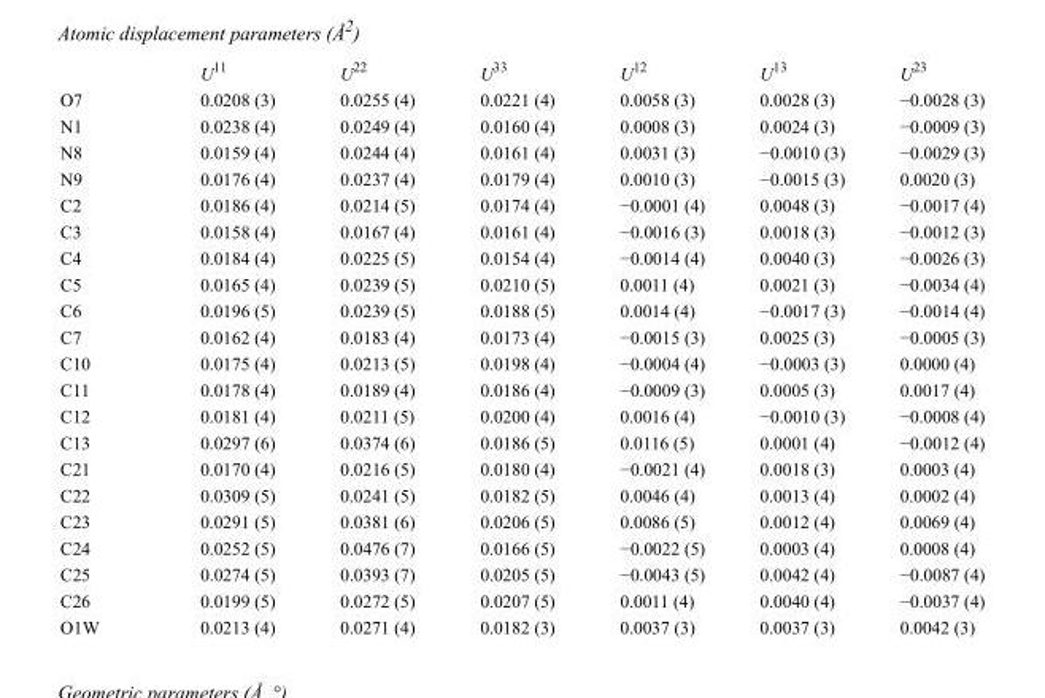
<table><thead><tr><td></td><td>U<sup>11</sup></td><td>U<sup>22</sup></td><td>U<sup>33</sup></td><td>U<sup>12</sup></td><td>U<sup>13</sup></td><td>U<sup>23</sup></td></tr></thead><tbody><tr><td>O7</td><td>0.0208 (3)</td><td>0.0255 (4)</td><td>0.0221 (4)</td><td>0.0058 (3)</td><td>0.0028 (3)</td><td>−0.0028 (3)</td></tr><tr><td>N1</td><td>0.0238 (4)</td><td>0.0249 (4)</td><td>0.0160 (4)</td><td>0.0008 (3)</td><td>0.0024 (3)</td><td>−0.0009 (3)</td></tr><tr><td>N8</td><td>0.0159 (4)</td><td>0.0244 (4)</td><td>0.0161 (4)</td><td>0.0031 (3)</td><td>−0.0010 (3)</td><td>−0.0029 (3)</td></tr><tr><td>N9</td><td>0.0176 (4)</td><td>0.0237 (4)</td><td>0.0179 (4)</td><td>0.0010 (3)</td><td>−0.0015 (3)</td><td>0.0020 (3)</td></tr><tr><td>C2</td><td>0.0186 (4)</td><td>0.0214 (5)</td><td>0.0174 (4)</td><td>−0.0001 (4)</td><td>0.0048 (3)</td><td>−0.0017 (4)</td></tr><tr><td>C3</td><td>0.0158 (4)</td><td>0.0167 (4)</td><td>0.0161 (4)</td><td>−0.0016 (3)</td><td>0.0018 (3)</td><td>−0.0012 (3)</td></tr><tr><td>C4</td><td>0.0184 (4)</td><td>0.0225 (5)</td><td>0.0154 (4)</td><td>−0.0014 (4)</td><td>0.0040 (3)</td><td>−0.0026 (3)</td></tr><tr><td>C5</td><td>0.0165 (4)</td><td>0.0239 (5)</td><td>0.0210 (5)</td><td>0.0011 (4)</td><td>0.0021 (3)</td><td>−0.0034 (4)</td></tr><tr><td>C6</td><td>0.0196 (5)</td><td>0.0239 (5)</td><td>0.0188 (5)</td><td>0.0014 (4)</td><td>−0.0017 (3)</td><td>−0.0014 (4)</td></tr><tr><td>C7</td><td>0.0162 (4)</td><td>0.0183 (4)</td><td>0.0173 (4)</td><td>−0.0015 (3)</td><td>0.0025 (3)</td><td>−0.0005 (3)</td></tr><tr><td>C10</td><td>0.0175 (4)</td><td>0.0213 (5)</td><td>0.0198 (4)</td><td>−0.0004 (4)</td><td>−0.0003 (3)</td><td>0.0000 (4)</td></tr><tr><td>C11</td><td>0.0178 (4)</td><td>0.0189 (4)</td><td>0.0186 (4)</td><td>−0.0009 (3)</td><td>0.0005 (3)</td><td>0.0017 (4)</td></tr><tr><td>C12</td><td>0.0181 (4)</td><td>0.0211 (5)</td><td>0.0200 (4)</td><td>0.0016 (4)</td><td>−0.0010 (3)</td><td>−0.0008 (4)</td></tr><tr><td>C13</td><td>0.0297 (6)</td><td>0.0374 (6)</td><td>0.0186 (5)</td><td>0.0116 (5)</td><td>0.0001 (4)</td><td>−0.0012 (4)</td></tr><tr><td>C21</td><td>0.0170 (4)</td><td>0.0216 (5)</td><td>0.0180 (4)</td><td>−0.0021 (4)</td><td>0.0018 (3)</td><td>0.0003 (4)</td></tr><tr><td>C22</td><td>0.0309 (5)</td><td>0.0241 (5)</td><td>0.0182 (5)</td><td>0.0046 (4)</td><td>0.0013 (4)</td><td>0.0002 (4)</td></tr><tr><td>C23</td><td>0.0291 (5)</td><td>0.0381 (6)</td><td>0.0206 (5)</td><td>0.0086 (5)</td><td>0.0012 (4)</td><td>0.0069 (4)</td></tr><tr><td>C24</td><td>0.0252 (5)</td><td>0.0476 (7)</td><td>0.0166 (5)</td><td>−0.0022 (5)</td><td>0.0003 (4)</td><td>0.0008 (4)</td></tr><tr><td>C25</td><td>0.0274 (5)</td><td>0.0393 (7)</td><td>0.0205 (5)</td><td>−0.0043 (5)</td><td>0.0042 (4)</td><td>−0.0087 (4)</td></tr><tr><td>C26</td><td>0.0199 (5)</td><td>0.0272 (5)</td><td>0.0207 (5)</td><td>0.0011 (4)</td><td>0.0040 (4)</td><td>−0.0037 (4)</td></tr><tr><td>O1W</td><td>0.0213 (4)</td><td>0.0271 (4)</td><td>0.0182 (3)</td><td>0.0037 (3)</td><td>0.0037 (3)</td><td>0.0042 (3)</td></tr></tbody></table>